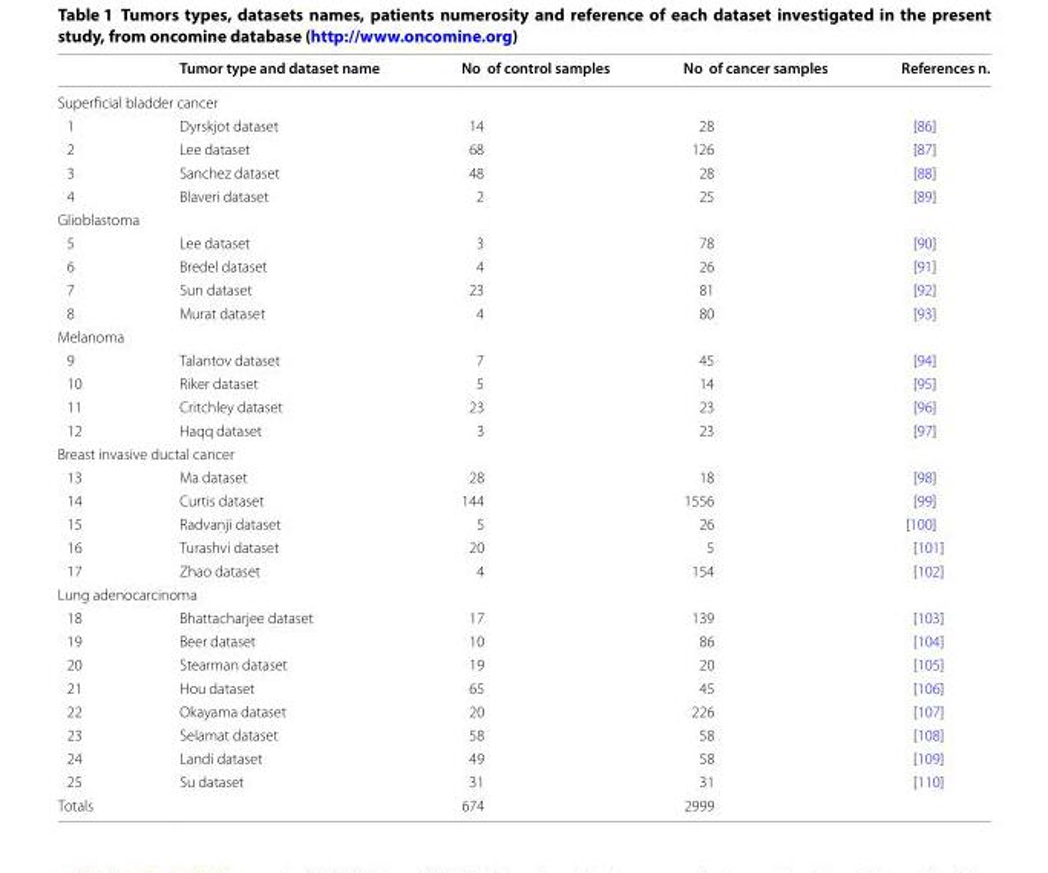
<table><thead><tr><td></td><td>Tumor type and dataset name</td><td>No of control samples</td><td>No of cancer samples</td><td>References n.</td></tr></thead><tbody><tr><td colspan="5">Superficial bladder cancer</td></tr><tr><td>1</td><td>Dyrskjot dataset</td><td>14</td><td>28</td><td>[86]</td></tr><tr><td>2</td><td>Lee dataset</td><td>68</td><td>126</td><td>[87]</td></tr><tr><td>3</td><td>Sanchez dataset</td><td>48</td><td>28</td><td>[88]</td></tr><tr><td>4</td><td>Blaveri dataset</td><td>2</td><td>25</td><td>[89]</td></tr><tr><td colspan="5">Glioblastoma</td></tr><tr><td>5</td><td>Lee dataset</td><td>3</td><td>78</td><td>[90]</td></tr><tr><td>6</td><td>Bredel dataset</td><td>4</td><td>26</td><td>[91]</td></tr><tr><td>7</td><td>Sun dataset</td><td>23</td><td>81</td><td>[92]</td></tr><tr><td>8</td><td>Murat dataset</td><td>4</td><td>80</td><td>[93]</td></tr><tr><td colspan="5">Melanoma</td></tr><tr><td>9</td><td>Talantov dataset</td><td>7</td><td>45</td><td>[94]</td></tr><tr><td>10</td><td>Riker dataset</td><td>5</td><td>14</td><td>[95]</td></tr><tr><td>11</td><td>Critchley dataset</td><td>23</td><td>23</td><td>[96]</td></tr><tr><td>12</td><td>Haqq dataset</td><td>3</td><td>23</td><td>[97]</td></tr><tr><td colspan="5">Breast invasive ductal cancer</td></tr><tr><td>13</td><td>Ma dataset</td><td>28</td><td>18</td><td>[98]</td></tr><tr><td>14</td><td>Curtis dataset</td><td>144</td><td>1556</td><td>[99]</td></tr><tr><td>15</td><td>Radvanji dataset</td><td>5</td><td>26</td><td>[100]</td></tr><tr><td>16</td><td>Turashvi dataset</td><td>20</td><td>5</td><td>[101]</td></tr><tr><td>17</td><td>Zhao dataset</td><td>4</td><td>154</td><td>[102]</td></tr><tr><td colspan="5">Lung adenocarcinoma</td></tr><tr><td>18</td><td>Bhattacharjee dataset</td><td>17</td><td>139</td><td>[103]</td></tr><tr><td>19</td><td>Beer dataset</td><td>10</td><td>86</td><td>[104]</td></tr><tr><td>20</td><td>Stearman dataset</td><td>19</td><td>20</td><td>[105]</td></tr><tr><td>21</td><td>Hou dataset</td><td>65</td><td>45</td><td>[106]</td></tr><tr><td>22</td><td>Okayama dataset</td><td>20</td><td>226</td><td>[107]</td></tr><tr><td>23</td><td>Selamat dataset</td><td>58</td><td>58</td><td>[108]</td></tr><tr><td>24</td><td>Landi dataset</td><td>49</td><td>58</td><td>[109]</td></tr><tr><td>25</td><td>Su dataset</td><td>31</td><td>31</td><td>[110]</td></tr><tr><td colspan="2">Totals</td><td>674</td><td colspan="2">2999</td></tr></tbody></table>